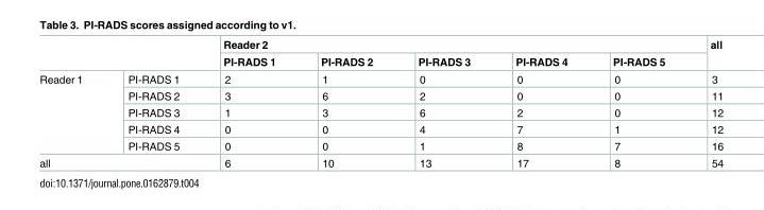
<table><thead><tr><td rowspan="2"></td><td rowspan="2"></td><td colspan="5">Reader 2</td><td rowspan="2">all</td></tr><tr><td>PI-RADS 1</td><td>PI-RADS 2</td><td>PI-RADS 3</td><td>PI-RADS 4</td><td>PI-RADS 5</td></tr></thead><tbody><tr><td rowspan="5">Reader 1</td><td>PI-RADS 1</td><td>2</td><td>1</td><td>0</td><td>0</td><td>0</td><td>3</td></tr><tr><td>PI-RADS 2</td><td>3</td><td>6</td><td>2</td><td>0</td><td>0</td><td>11</td></tr><tr><td>PI-RADS 3</td><td>1</td><td>3</td><td>6</td><td>2</td><td>0</td><td>12</td></tr><tr><td>PI-RADS 4</td><td>0</td><td>0</td><td>4</td><td>7</td><td>1</td><td>12</td></tr><tr><td>PI-RADS 5</td><td>0</td><td>0</td><td>1</td><td>8</td><td>7</td><td>16</td></tr><tr><td colspan="2">all</td><td>6</td><td>10</td><td>13</td><td>17</td><td>8</td><td>54</td></tr></tbody></table>